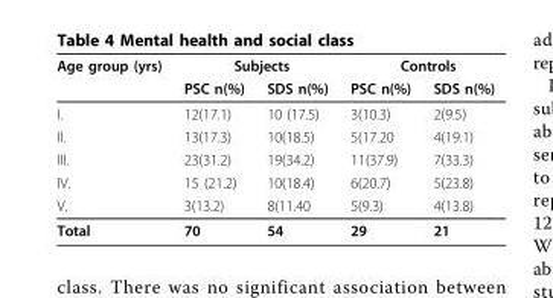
<table><thead><tr><td rowspan="2">Age group (yrs)</td><td colspan="2">Subjects</td><td colspan="2">Controls</td></tr><tr><td>PSC n(%)</td><td>SDS n(%)</td><td>PSC n(%)</td><td>SDS n(%)</td></tr></thead><tbody><tr><td>I.</td><td>12(17.1)</td><td>10 (17.5)</td><td>3(10.3)</td><td>2(9.5)</td></tr><tr><td>II.</td><td>13(17.3)</td><td>10(18.5)</td><td>5(17.20</td><td>4(19.1)</td></tr><tr><td>III.</td><td>23(31.2)</td><td>19(34.2)</td><td>11(37.9)</td><td>7(33.3)</td></tr><tr><td>IV.</td><td>15 (21.2)</td><td>10(18.4)</td><td>6(20.7)</td><td>5(23.8)</td></tr><tr><td>V.</td><td>3(13.2)</td><td>8(11.40</td><td>5(9.3)</td><td>4(13.8)</td></tr><tr><td>Total</td><td>70</td><td>54</td><td>29</td><td>21</td></tr></tbody></table>